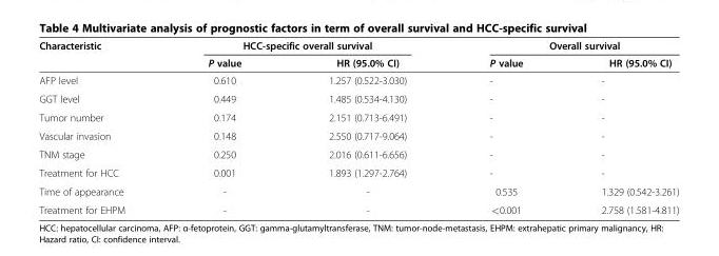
<table><thead><tr><td rowspan="2">Characteristic</td><td colspan="2">HCC-specific overall survival</td><td colspan="2">Overall survival</td></tr><tr><td>P value</td><td>HR (95.0% CI)</td><td>P value</td><td>HR (95.0% CI)</td></tr></thead><tbody><tr><td>AFP level</td><td>0.610</td><td>1.257 (0.522-3.030)</td><td>-</td><td>-</td></tr><tr><td>GGT level</td><td>0.449</td><td>1.485 (0.534-4.130)</td><td>-</td><td>-</td></tr><tr><td>Tumor number</td><td>0.174</td><td>2.151 (0.713-6.491)</td><td>-</td><td>-</td></tr><tr><td>Vascular invasion</td><td>0.148</td><td>2.550 (0.717-9.064)</td><td>-</td><td>-</td></tr><tr><td>TNM stage</td><td>0.250</td><td>2.016 (0.611-6.656)</td><td>-</td><td>-</td></tr><tr><td>Treatment for HCC</td><td>0.001</td><td>1.893 (1.297-2.764)</td><td>-</td><td>-</td></tr><tr><td>Time of appearance</td><td>-</td><td>-</td><td>0.535</td><td>1.329 (0.542-3.261)</td></tr><tr><td>Treatment for EHPM</td><td>-</td><td>-</td><td>&lt;0.001</td><td>2.758 (1.581-4.811)</td></tr></tbody></table>